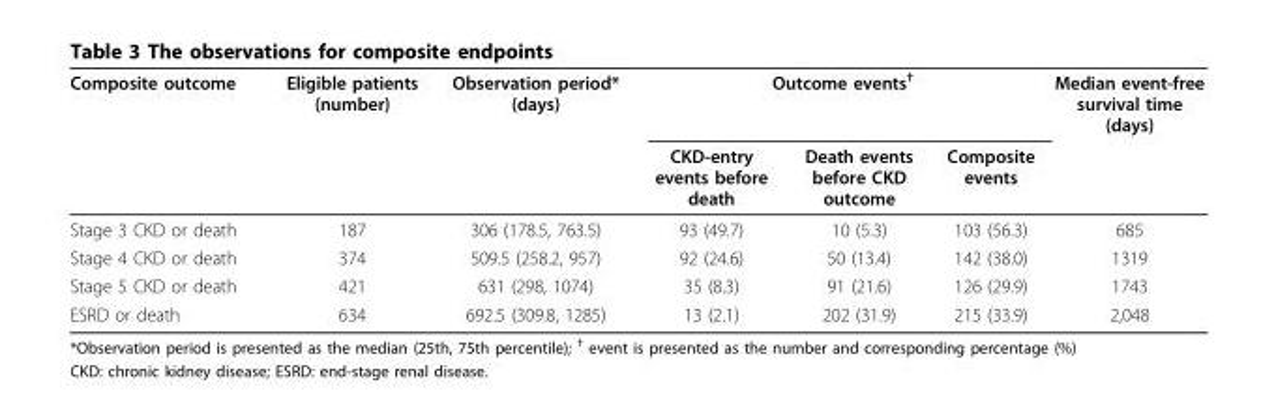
<table><thead><tr><td rowspan="2">Composite outcome</td><td rowspan="2">Eligible patients (number)</td><td rowspan="2">Observation period* (days)</td><td colspan="3">Outcome events<sup>†</sup></td><td rowspan="2">Median event-free survival time (days)</td></tr><tr><td>CKD-entry events before death</td><td>Death events before CKD outcome</td><td>Composite events</td></tr></thead><tbody><tr><td>Stage 3 CKD or death</td><td>187</td><td>306 (178.5, 763.5)</td><td>93 (49.7)</td><td>10 (5.3)</td><td>103 (56.3)</td><td>685</td></tr><tr><td>Stage 4 CKD or death</td><td>374</td><td>509.5 (258.2, 957)</td><td>92 (24.6)</td><td>50 (13.4)</td><td>142 (38.0)</td><td>1319</td></tr><tr><td>Stage 5 CKD or death</td><td>421</td><td>631 (298, 1074)</td><td>35 (8.3)</td><td>91 (21.6)</td><td>126 (29.9)</td><td>1743</td></tr><tr><td>ESRD or death</td><td>634</td><td>692.5 (309.8, 1285)</td><td>13 (2.1)</td><td>202 (31.9)</td><td>215 (33.9)</td><td>2,048</td></tr></tbody></table>